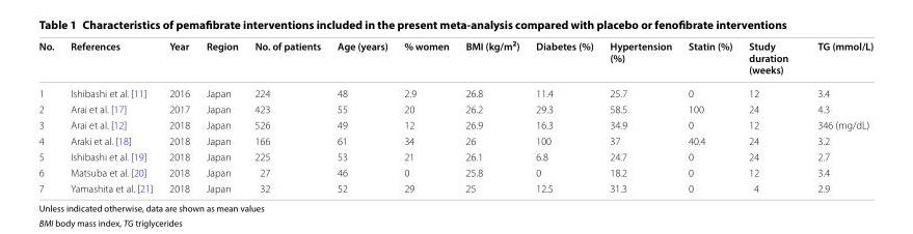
<table><thead><tr><td>No.</td><td>References</td><td>Year</td><td>Region</td><td>No. of patients</td><td>Age (years)</td><td>% women</td><td>BMI (kg/m<sup>2</sup>)</td><td>Diabetes (%)</td><td>Hypertension (%)</td><td>Statin (%)</td><td>Study duration (weeks)</td><td>TG (mmol/L)</td></tr></thead><tbody><tr><td>1</td><td>Ishibashi et al. [11]</td><td>2016</td><td>Japan</td><td>224</td><td>48</td><td>2.9</td><td>26.8</td><td>11.4</td><td>25.7</td><td>0</td><td>12</td><td>3.4</td></tr><tr><td>2</td><td>Arai et al. [17]</td><td>2017</td><td>Japan</td><td>423</td><td>55</td><td>20</td><td>26.2</td><td>29.3</td><td>58.5</td><td>100</td><td>24</td><td>4.3</td></tr><tr><td>3</td><td>Arai et al. [12]</td><td>2018</td><td>Japan</td><td>526</td><td>49</td><td>12</td><td>26.9</td><td>16.3</td><td>34.9</td><td>0</td><td>12</td><td>346 (mg/dL)</td></tr><tr><td>4</td><td>Araki et al. [18]</td><td>2018</td><td>Japan</td><td>166</td><td>61</td><td>34</td><td>26</td><td>100</td><td>37</td><td>40.4</td><td>24</td><td>3.2</td></tr><tr><td>5</td><td>Ishibashi et al. [19]</td><td>2018</td><td>Japan</td><td>225</td><td>53</td><td>21</td><td>26.1</td><td>6.8</td><td>24.7</td><td>0</td><td>24</td><td>2.7</td></tr><tr><td>6</td><td>Matsuba et al. [20]</td><td>2018</td><td>Japan</td><td>27</td><td>46</td><td>0</td><td>25.8</td><td>0</td><td>18.2</td><td>0</td><td>12</td><td>3.4</td></tr><tr><td>7</td><td>Yamashita et al. [21]</td><td>2018</td><td>Japan</td><td>32</td><td>52</td><td>29</td><td>25</td><td>12.5</td><td>31.3</td><td>0</td><td>4</td><td>2.9</td></tr></tbody></table>